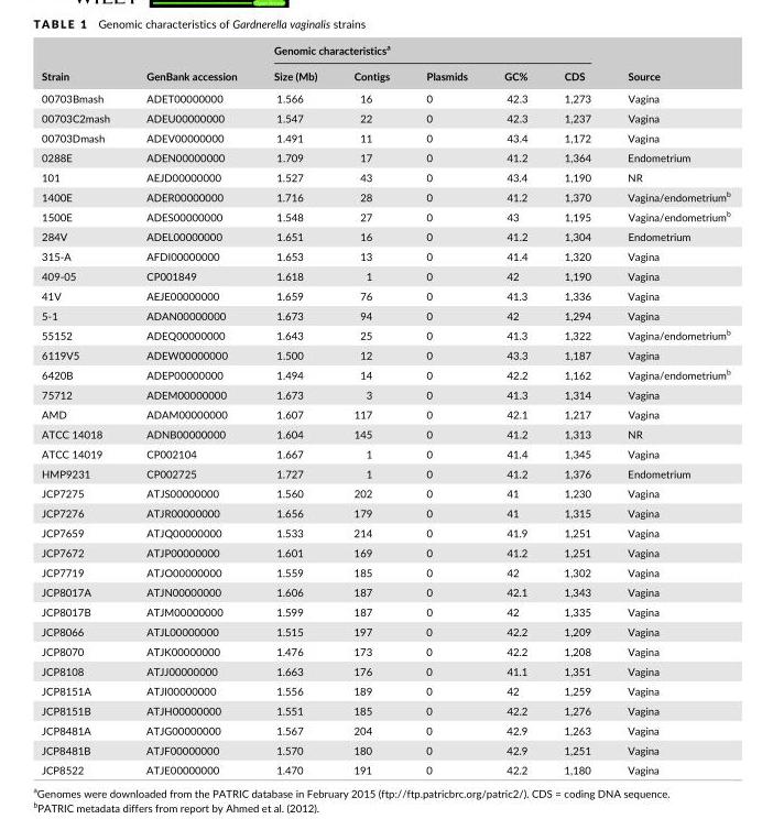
<table><thead><tr><td rowspan="2">Strain</td><td rowspan="2">GenBank accession</td><td colspan="5">Genomic characteristics<sup>a</sup></td><td rowspan="2">Source</td></tr><tr><td>Size (Mb)</td><td>Contigs</td><td>Plasmids</td><td>GC%</td><td>CDS</td></tr></thead><tbody><tr><td>00703Bmash</td><td>ADET00000000</td><td>1.566</td><td>16</td><td>0</td><td>42.3</td><td>1,273</td><td>Vagina</td></tr><tr><td>00703C2mash</td><td>ADEU00000000</td><td>1.547</td><td>22</td><td>0</td><td>42.3</td><td>1,237</td><td>Vagina</td></tr><tr><td>00703Dmash</td><td>ADEV00000000</td><td>1.491</td><td>11</td><td>0</td><td>43.4</td><td>1,172</td><td>Vagina</td></tr><tr><td>0288E</td><td>ADEN00000000</td><td>1.709</td><td>17</td><td>0</td><td>41.2</td><td>1,364</td><td>Endometrium</td></tr><tr><td>101</td><td>AEJD00000000</td><td>1.527</td><td>43</td><td>0</td><td>43.4</td><td>1,190</td><td>NR</td></tr><tr><td>1400E</td><td>ADER00000000</td><td>1.716</td><td>28</td><td>0</td><td>41.2</td><td>1,370</td><td>Vagina/endometrium<sup>b</sup></td></tr><tr><td>1500E</td><td>ADES00000000</td><td>1.548</td><td>27</td><td>0</td><td>43</td><td>1,195</td><td>Vagina/endometrium<sup>b</sup></td></tr><tr><td>284V</td><td>ADEL00000000</td><td>1.651</td><td>16</td><td>0</td><td>41.2</td><td>1,304</td><td>Endometrium</td></tr><tr><td>315- A</td><td>AFDI00000000</td><td>1.653</td><td>13</td><td>0</td><td>41.4</td><td>1,320</td><td>Vagina</td></tr><tr><td>409- 05</td><td>CP001849</td><td>1.618</td><td>1</td><td>0</td><td>42</td><td>1,190</td><td>Vagina</td></tr><tr><td>41V</td><td>AEJE00000000</td><td>1.659</td><td>76</td><td>0</td><td>41.3</td><td>1,336</td><td>Vagina</td></tr><tr><td>5- 1</td><td>ADAN00000000</td><td>1.673</td><td>94</td><td>0</td><td>42</td><td>1,294</td><td>Vagina</td></tr><tr><td>55152</td><td>ADEQ00000000</td><td>1.643</td><td>25</td><td>0</td><td>41.3</td><td>1,322</td><td>Vagina/endometrium<sup>b</sup></td></tr><tr><td>6119V5</td><td>ADEW00000000</td><td>1.500</td><td>12</td><td>0</td><td>43.3</td><td>1,187</td><td>Vagina</td></tr><tr><td>6420B</td><td>ADEP00000000</td><td>1.494</td><td>14</td><td>0</td><td>42.2</td><td>1,162</td><td>Vagina/endometrium<sup>b</sup></td></tr><tr><td>75712</td><td>ADEM00000000</td><td>1.673</td><td>3</td><td>0</td><td>41.3</td><td>1,314</td><td>Vagina</td></tr><tr><td>AMD</td><td>ADAM00000000</td><td>1.607</td><td>117</td><td>0</td><td>42.1</td><td>1,217</td><td>Vagina</td></tr><tr><td>ATCC 14018</td><td>ADNB00000000</td><td>1.604</td><td>145</td><td>0</td><td>41.2</td><td>1,313</td><td>NR</td></tr><tr><td>ATCC 14019</td><td>CP002104</td><td>1.667</td><td>1</td><td>0</td><td>41.4</td><td>1,345</td><td>Vagina</td></tr><tr><td>HMP9231</td><td>CP002725</td><td>1.727</td><td>1</td><td>0</td><td>41.2</td><td>1,376</td><td>Endometrium</td></tr><tr><td>JCP7275</td><td>ATJS00000000</td><td>1.560</td><td>202</td><td>0</td><td>41</td><td>1,230</td><td>Vagina</td></tr><tr><td>JCP7276</td><td>ATJR00000000</td><td>1.656</td><td>179</td><td>0</td><td>41</td><td>1,315</td><td>Vagina</td></tr><tr><td>JCP7659</td><td>ATJQ00000000</td><td>1.533</td><td>214</td><td>0</td><td>41.9</td><td>1,251</td><td>Vagina</td></tr><tr><td>JCP7672</td><td>ATJP00000000</td><td>1.601</td><td>169</td><td>0</td><td>41.2</td><td>1,251</td><td>Vagina</td></tr><tr><td>JCP7719</td><td>ATJO00000000</td><td>1.559</td><td>185</td><td>0</td><td>42</td><td>1,302</td><td>Vagina</td></tr><tr><td>JCP8017A</td><td>ATJN00000000</td><td>1.606</td><td>187</td><td>0</td><td>42.1</td><td>1,343</td><td>Vagina</td></tr><tr><td>JCP8017B</td><td>ATJM00000000</td><td>1.599</td><td>187</td><td>0</td><td>42</td><td>1,335</td><td>Vagina</td></tr><tr><td>JCP8066</td><td>ATJL00000000</td><td>1.515</td><td>197</td><td>0</td><td>42.2</td><td>1,209</td><td>Vagina</td></tr><tr><td>JCP8070</td><td>ATJK00000000</td><td>1.476</td><td>173</td><td>0</td><td>42.2</td><td>1,208</td><td>Vagina</td></tr><tr><td>JCP8108</td><td>ATJJ00000000</td><td>1.663</td><td>176</td><td>0</td><td>41.1</td><td>1,351</td><td>Vagina</td></tr><tr><td>JCP8151A</td><td>ATJI00000000</td><td>1.556</td><td>189</td><td>0</td><td>42</td><td>1,259</td><td>Vagina</td></tr><tr><td>JCP8151B</td><td>ATJH00000000</td><td>1.551</td><td>185</td><td>0</td><td>42.2</td><td>1,276</td><td>Vagina</td></tr><tr><td>JCP8481A</td><td>ATJG00000000</td><td>1.567</td><td>204</td><td>0</td><td>42.9</td><td>1,263</td><td>Vagina</td></tr><tr><td>JCP8481B</td><td>ATJF00000000</td><td>1.570</td><td>180</td><td>0</td><td>42.9</td><td>1,251</td><td>Vagina</td></tr><tr><td>JCP8522</td><td>ATJE00000000</td><td>1.470</td><td>191</td><td>0</td><td>42.2</td><td>1,180</td><td>Vagina</td></tr></tbody></table>